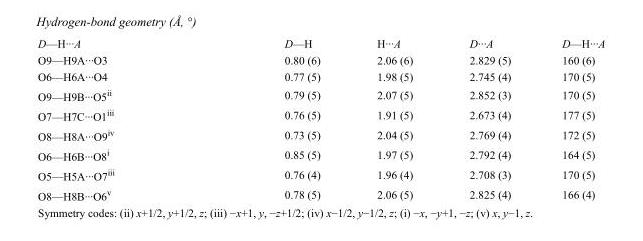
<table><tbody><tr><td>D—H···A</td><td>D—H</td><td>H···A</td><td>D···A</td><td>D—H···A</td></tr><tr><td>O9—H9A···O3</td><td>0.80 (6)</td><td>2.06 (6)</td><td>2.829 (5)</td><td>160 (6)</td></tr><tr><td>O6—H6A···O4</td><td>0.77 (5)</td><td>1.98 (5)</td><td>2.745 (4)</td><td>170 (5)</td></tr><tr><td>O9—H9B···O5<sup>ii</sup></td><td>0.79 (5)</td><td>2.07 (5)</td><td>2.852 (3)</td><td>170 (5)</td></tr><tr><td>O7—H7C···O1<sup>iii</sup></td><td>0.76 (5)</td><td>1.91 (5)</td><td>2.673 (4)</td><td>177 (5)</td></tr><tr><td>O8—H8A···O9<sup>iv</sup></td><td>0.73 (5)</td><td>2.04 (5)</td><td>2.769 (4)</td><td>172 (5)</td></tr><tr><td>O6—H6B···O8<sup>i</sup></td><td>0.85 (5)</td><td>1.97 (5)</td><td>2.792 (4)</td><td>164 (5)</td></tr><tr><td>O5—H5A···O7<sup>iii</sup></td><td>0.76 (4)</td><td>1.96 (4)</td><td>2.708 (3)</td><td>170 (5)</td></tr><tr><td>O8—H8B···O6<sup>v</sup></td><td>0.78 (5)</td><td>2.06 (5)</td><td>2.825 (4)</td><td>166 (4)</td></tr></tbody></table>